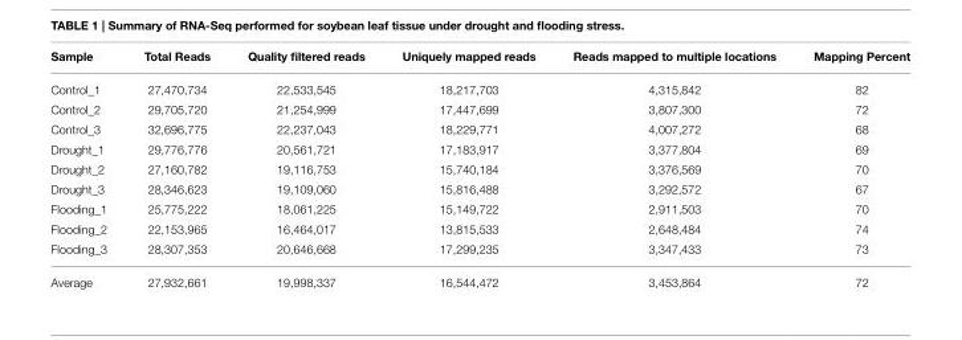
<table><thead><tr><td>Sample</td><td>Total Reads</td><td>Quality filtered reads</td><td>Uniquely mapped reads</td><td>Reads mapped to multiple locations</td><td>Mapping Percent</td></tr></thead><tbody><tr><td>Control_1</td><td>27,470,734</td><td>22,533,545</td><td>18,217,703</td><td>4,315,842</td><td>82</td></tr><tr><td>Control_2</td><td>29,705,720</td><td>21,254,999</td><td>17,447,699</td><td>3,807,300</td><td>72</td></tr><tr><td>Control_3</td><td>32,696,775</td><td>22,237,043</td><td>18,229,771</td><td>4,007,272</td><td>68</td></tr><tr><td>Drought_1</td><td>29,776,776</td><td>20,561,721</td><td>17,183,917</td><td>3,377,804</td><td>69</td></tr><tr><td>Drought_2</td><td>27,160,782</td><td>19,116,753</td><td>15,740,184</td><td>3,376,569</td><td>70</td></tr><tr><td>Drought_3</td><td>28,346,623</td><td>19,109,060</td><td>15,816,488</td><td>3,292,572</td><td>67</td></tr><tr><td>Flooding_1</td><td>25,775,222</td><td>18,061,225</td><td>15,149,722</td><td>2,911,503</td><td>70</td></tr><tr><td>Flooding_2</td><td>22,153,965</td><td>16,464,017</td><td>13,815,533</td><td>2,648,484</td><td>74</td></tr><tr><td>Flooding_3</td><td>28,307,353</td><td>20,646,668</td><td>17,299,235</td><td>3,347,433</td><td>73</td></tr><tr><td>Average</td><td>27,932,661</td><td>19,998,337</td><td>16,544,472</td><td>3,453,864</td><td>72</td></tr></tbody></table>